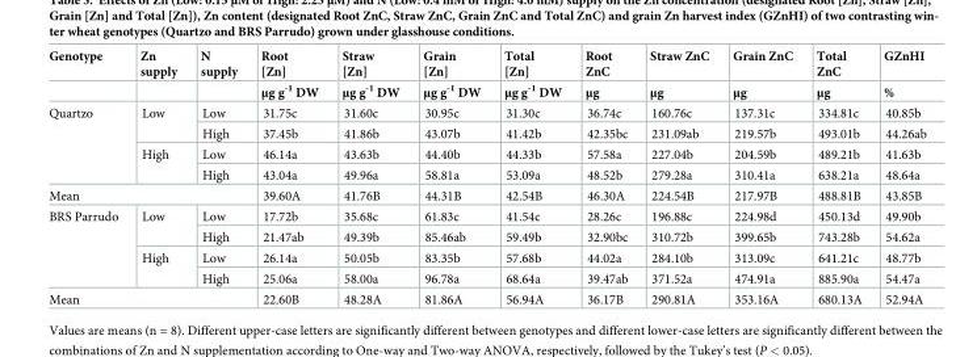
<table><thead><tr><td rowspan="2">Genotype</td><td rowspan="2">Zn supply</td><td rowspan="2">N supply</td><td rowspan="2">Root [Zn] μg g<sup>-1</sup> DW</td><td rowspan="2">Straw [Zn] μg g<sup>-1</sup> DW</td><td rowspan="2">Grain [Zn] μg g<sup>-1</sup> DW</td><td rowspan="2">Total [Zn] μg g<sup>-1</sup> DW</td><td rowspan="2">Root ZnC μg</td><td rowspan="2">Straw ZnC μg</td><td rowspan="2">Grain ZnC μg</td><td rowspan="2">Total ZnC μg</td><td rowspan="2">GZnHI %</td></tr><tr></tr></thead><tbody><tr><td rowspan="4">Quartzo</td><td rowspan="2">Low</td><td>Low</td><td>31.75c</td><td>31.60c</td><td>30.95c</td><td>31.30c</td><td>36.74c</td><td>160.76c</td><td>137.31c</td><td>334.81c</td><td>40.85b</td></tr><tr><td>High</td><td>37.45b</td><td>41.86b</td><td>43.07b</td><td>41.42b</td><td>42.35bc</td><td>231.09ab</td><td>219.57b</td><td>493.01b</td><td>44.26ab</td></tr><tr><td rowspan="2">High</td><td>Low</td><td>46.14a</td><td>43.63b</td><td>44.40b</td><td>44.33b</td><td>57.58a</td><td>227.04b</td><td>204.59b</td><td>489.21b</td><td>41.63b</td></tr><tr><td>High</td><td>43.04a</td><td>49.96a</td><td>58.81a</td><td>53.09a</td><td>48.52b</td><td>279.28a</td><td>310.41a</td><td>638.21a</td><td>48.64a</td></tr><tr><td colspan="3">Mean</td><td>39.60A</td><td>41.76B</td><td>44.31B</td><td>42.54B</td><td>46.30A</td><td>224.54B</td><td>217.97B</td><td>488.81B</td><td>43.85B</td></tr><tr><td rowspan="4">BRS Parrudo</td><td rowspan="2">Low</td><td>Low</td><td>17.72b</td><td>35.68c</td><td>61.83c</td><td>41.54c</td><td>28.26c</td><td>196.88c</td><td>224.98d</td><td>450.13d</td><td>49.90b</td></tr><tr><td>High</td><td>21.47ab</td><td>49.39b</td><td>85.46ab</td><td>59.49b</td><td>32.90bc</td><td>310.72b</td><td>399.65b</td><td>743.28b</td><td>54.62a</td></tr><tr><td rowspan="2">High</td><td>Low</td><td>26.14a</td><td>50.05b</td><td>83.35b</td><td>57.68b</td><td>44.02a</td><td>284.10b</td><td>313.09c</td><td>641.21c</td><td>48.77b</td></tr><tr><td>High</td><td>25.06a</td><td>58.00a</td><td>96.78a</td><td>68.64a</td><td>39.47ab</td><td>371.52a</td><td>474.91a</td><td>885.90a</td><td>54.47a</td></tr><tr><td colspan="3">Mean</td><td>22.60B</td><td>48.28A</td><td>81.86A</td><td>56.94A</td><td>36.17B</td><td>290.81A</td><td>353.16A</td><td>680.13A</td><td>52.94A</td></tr></tbody></table>